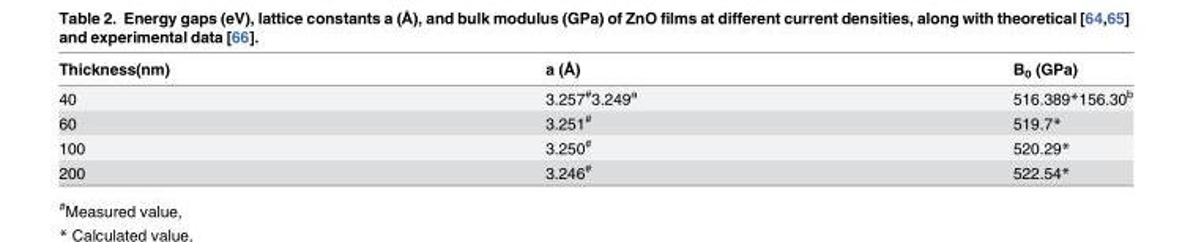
<table><thead><tr><td>Thickness(nm)</td><td>a (Å)</td><td>B<sub>0</sub> (GPa)</td></tr></thead><tbody><tr><td>40</td><td>3.257<sup>#</sup>3.249<sup>a</sup></td><td>516.389*156.30<sup>b</sup></td></tr><tr><td>60</td><td>3.251<sup>#</sup></td><td>519.7*</td></tr><tr><td>100</td><td>3.250<sup>#</sup></td><td>520.29*</td></tr><tr><td>200</td><td>3.246<sup>#</sup></td><td>522.54*</td></tr></tbody></table>